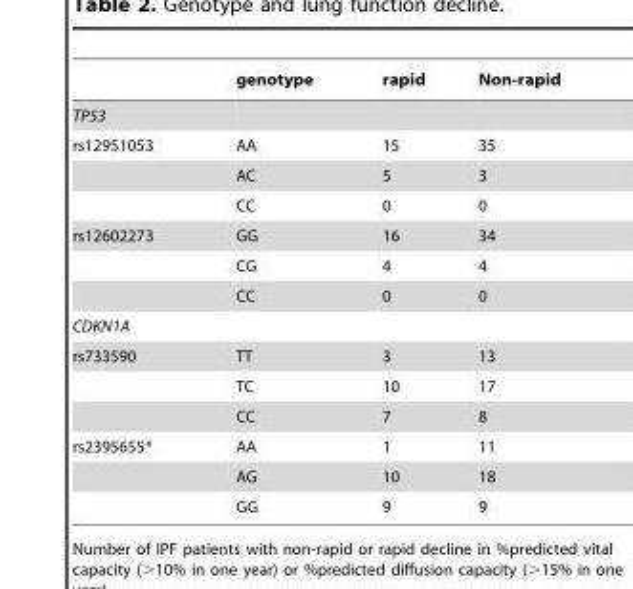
<table><thead><tr><td></td><td>genotype</td><td>rapid</td><td>Non-rapid</td></tr></thead><tbody><tr><td colspan="4">TP53</td></tr><tr><td rowspan="3">rs12951053</td><td>AA</td><td>15</td><td>35</td></tr><tr><td>AC</td><td>5</td><td>3</td></tr><tr><td>CC</td><td>0</td><td>0</td></tr><tr><td rowspan="3">rs12602273</td><td>GG</td><td>16</td><td>34</td></tr><tr><td>CG</td><td>4</td><td>4</td></tr><tr><td>CC</td><td>0</td><td>0</td></tr><tr><td colspan="4">CDKN1A</td></tr><tr><td rowspan="3">rs733590</td><td>TT</td><td>3</td><td>13</td></tr><tr><td>TC</td><td>10</td><td>17</td></tr><tr><td>CC</td><td>7</td><td>8</td></tr><tr><td rowspan="3">rs2395655*</td><td>AA</td><td>1</td><td>11</td></tr><tr><td>AG</td><td>10</td><td>18</td></tr><tr><td>GG</td><td>9</td><td>9</td></tr></tbody></table>